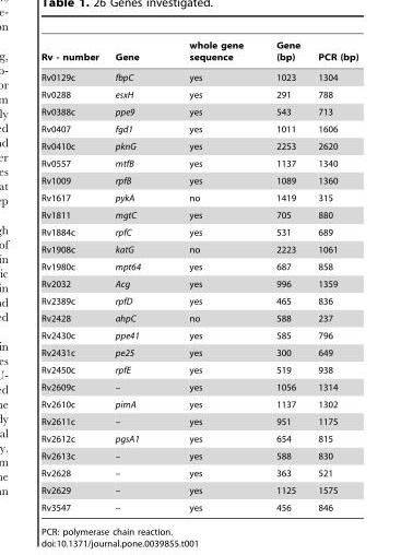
<table><thead><tr><td>Rv - number</td><td>Gene</td><td>whole gene sequence</td><td>Gene (bp)</td><td>PCR (bp)</td></tr></thead><tbody><tr><td>Rv0129c</td><td>fbpC</td><td>yes</td><td>1023</td><td>1304</td></tr><tr><td>Rv0288</td><td>esxH</td><td>yes</td><td>291</td><td>788</td></tr><tr><td>Rv0388c</td><td>ppe9</td><td>yes</td><td>543</td><td>713</td></tr><tr><td>Rv0407</td><td>fgd1</td><td>yes</td><td>1011</td><td>1606</td></tr><tr><td>Rv0410c</td><td>pknG</td><td>yes</td><td>2253</td><td>2620</td></tr><tr><td>Rv0557</td><td>mtfB</td><td>yes</td><td>1137</td><td>1340</td></tr><tr><td>Rv1009</td><td>rpfB</td><td>yes</td><td>1089</td><td>1360</td></tr><tr><td>Rv1617</td><td>pykA</td><td>no</td><td>1419</td><td>315</td></tr><tr><td>Rv1811</td><td>mgtC</td><td>yes</td><td>705</td><td>880</td></tr><tr><td>Rv1884c</td><td>rpfC</td><td>yes</td><td>531</td><td>689</td></tr><tr><td>Rv1908c</td><td>katG</td><td>no</td><td>2223</td><td>1061</td></tr><tr><td>Rv1980c</td><td>mpt64</td><td>yes</td><td>687</td><td>858</td></tr><tr><td>Rv2032</td><td>Acg</td><td>yes</td><td>996</td><td>1359</td></tr><tr><td>Rv2389c</td><td>rpfD</td><td>yes</td><td>465</td><td>836</td></tr><tr><td>Rv2428</td><td>ahpC</td><td>no</td><td>588</td><td>237</td></tr><tr><td>Rv2430c</td><td>ppe41</td><td>yes</td><td>585</td><td>796</td></tr><tr><td>Rv2431c</td><td>pe25</td><td>yes</td><td>300</td><td>649</td></tr><tr><td>Rv2450c</td><td>rpfE</td><td>yes</td><td>519</td><td>938</td></tr><tr><td>Rv2609c</td><td>–</td><td>yes</td><td>1056</td><td>1314</td></tr><tr><td>Rv2610c</td><td>pimA</td><td>yes</td><td>1137</td><td>1302</td></tr><tr><td>Rv2611c</td><td>–</td><td>yes</td><td>951</td><td>1175</td></tr><tr><td>Rv2612c</td><td>pgsA1</td><td>yes</td><td>654</td><td>815</td></tr><tr><td>Rv2613c</td><td>–</td><td>yes</td><td>588</td><td>830</td></tr><tr><td>Rv2628</td><td>–</td><td>yes</td><td>363</td><td>521</td></tr><tr><td>Rv2629</td><td>–</td><td>yes</td><td>1125</td><td>1575</td></tr><tr><td>Rv3547</td><td>–</td><td>yes</td><td>456</td><td>846</td></tr></tbody></table>